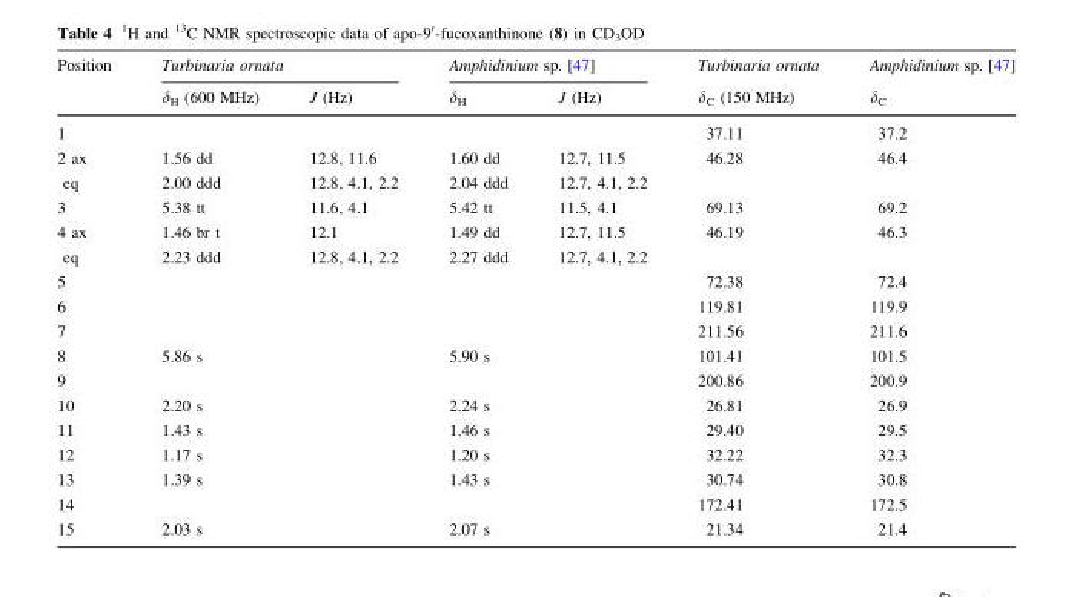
<table><thead><tr><td rowspan="2">Position</td><td colspan="2">Turbinaria ornata</td><td colspan="2">Amphidinium sp. [47]</td><td rowspan="2">Turbinaria ornata δ<sub>C</sub> (150 MHz)</td><td rowspan="2">Amphidinium sp. [47] δ<sub>C</sub></td></tr><tr><td>δ<sub>H</sub> (600 MHz)</td><td>J (Hz)</td><td>δ<sub>H</sub></td><td>J (Hz)</td></tr></thead><tbody><tr><td>1</td><td></td><td></td><td></td><td></td><td>37.11</td><td>37.2</td></tr><tr><td>2 ax eq</td><td>1.56 dd 2.00 ddd</td><td>12.8, 11.6 12.8, 4.1, 2.2</td><td>1.60 dd 2.04 ddd</td><td>12.7, 11.5 12.7, 4.1, 2.2</td><td>46.28</td><td>46.4</td></tr><tr><td>3</td><td>5.38 tt</td><td>11.6, 4.1</td><td>5.42 tt</td><td>11.5, 4.1</td><td>69.13</td><td>69.2</td></tr><tr><td>4 ax eq</td><td>1.46 br t 2.23 ddd</td><td>12.1 12.8, 4.1, 2.2</td><td>1.49 dd 2.27 ddd</td><td>12.7, 11.5 12.7, 4.1, 2.2</td><td>46.19</td><td>46.3</td></tr><tr><td>5</td><td></td><td></td><td></td><td></td><td>72.38</td><td>72.4</td></tr><tr><td>6</td><td></td><td></td><td></td><td></td><td>119.81</td><td>119.9</td></tr><tr><td>7</td><td></td><td></td><td></td><td></td><td>211.56</td><td>211.6</td></tr><tr><td>8</td><td>5.86 s</td><td></td><td>5.90 s</td><td></td><td>101.41</td><td>101.5</td></tr><tr><td>9</td><td></td><td></td><td></td><td></td><td>200.86</td><td>200.9</td></tr><tr><td>10</td><td>2.20 s</td><td></td><td>2.24 s</td><td></td><td>26.81</td><td>26.9</td></tr><tr><td>11</td><td>1.43 s</td><td></td><td>1.46 s</td><td></td><td>29.40</td><td>29.5</td></tr><tr><td>12</td><td>1.17 s</td><td></td><td>1.20 s</td><td></td><td>32.22</td><td>32.3</td></tr><tr><td>13</td><td>1.39 s</td><td></td><td>1.43 s</td><td></td><td>30.74</td><td>30.8</td></tr><tr><td>14</td><td></td><td></td><td></td><td></td><td>172.41</td><td>172.5</td></tr><tr><td>15</td><td>2.03 s</td><td></td><td>2.07 s</td><td></td><td>21.34</td><td>21.4</td></tr></tbody></table>